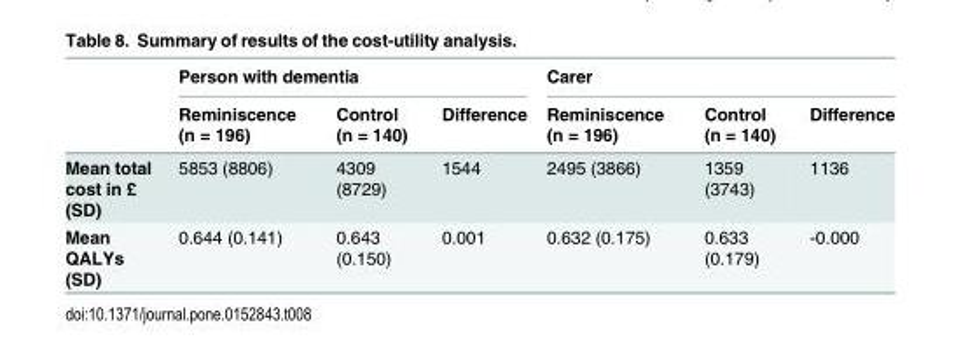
<table><thead><tr><td rowspan="2"></td><td colspan="3">Person with dementia</td><td colspan="3">Carer</td></tr><tr><td>Reminiscence (n = 196)</td><td>Control (n = 140)</td><td>Difference</td><td>Reminiscence (n = 196)</td><td>Control (n = 140)</td><td>Difference</td></tr></thead><tbody><tr><td>Mean total cost in £ (SD)</td><td>5853 (8806)</td><td>4309 (8729)</td><td>1544</td><td>2495 (3866)</td><td>1359 (3743)</td><td>1136</td></tr><tr><td>Mean QALYs (SD)</td><td>0.644 (0.141)</td><td>0.643 (0.150)</td><td>0.001</td><td>0.632 (0.175)</td><td>0.633 (0.179)</td><td>-0.000</td></tr></tbody></table>